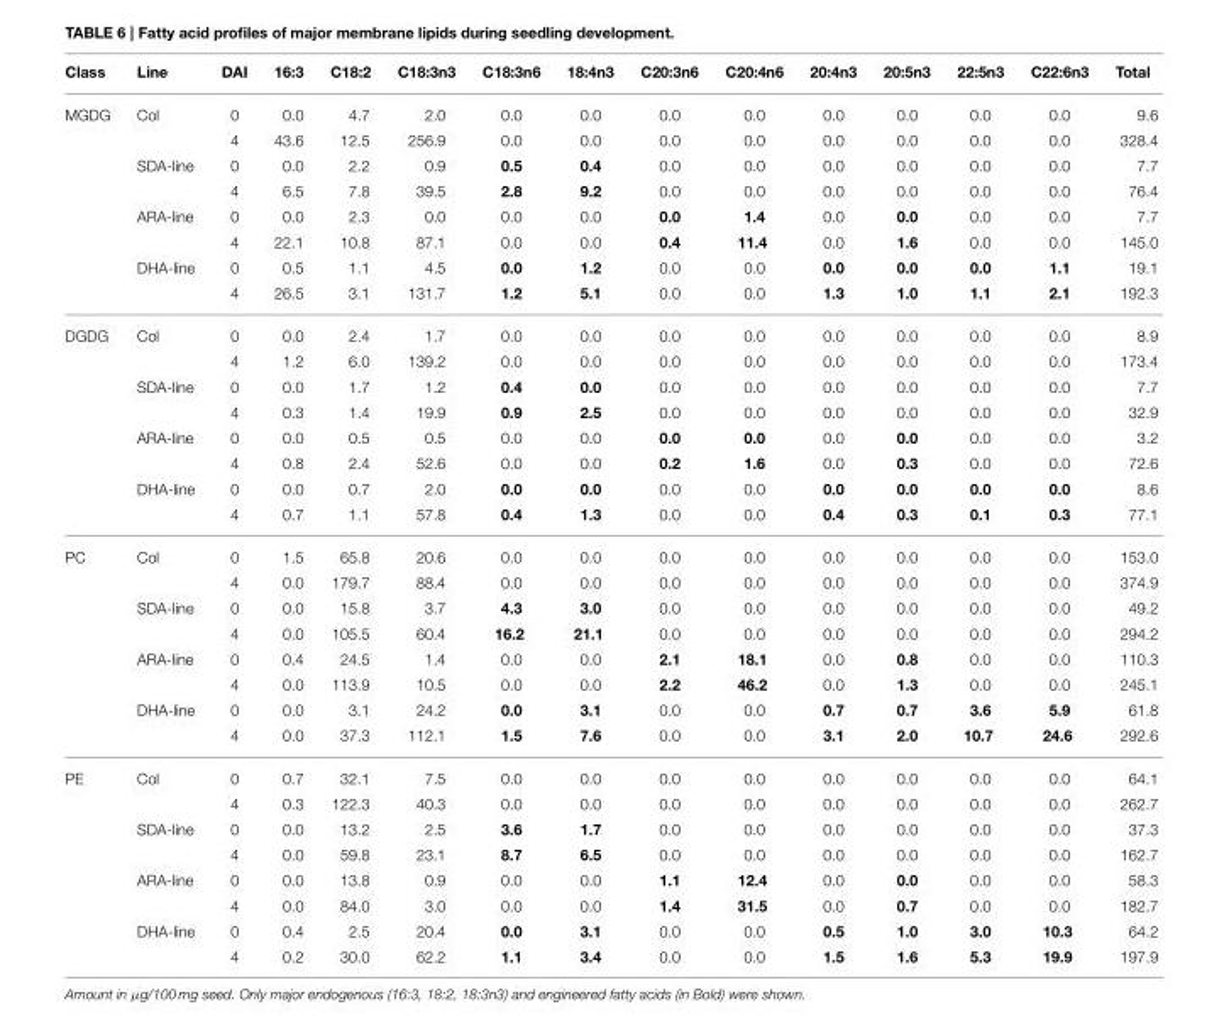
<table><thead><tr><td>Class</td><td>Line</td><td>DAI</td><td>16:3</td><td>C18:2</td><td>C18:3n3</td><td>C18:3n6</td><td>18:4n3</td><td>C20:3n6</td><td>C20:4n6</td><td>20:4n3</td><td>20:5n3</td><td>22:5n3</td><td>C22:6n3</td><td>Total</td></tr></thead><tbody><tr><td rowspan="8">MGDG</td><td>Col</td><td>0</td><td>0.0</td><td>4.7</td><td>2.0</td><td>0.0</td><td>0.0</td><td>0.0</td><td>0.0</td><td>0.0</td><td>0.0</td><td>0.0</td><td>0.0</td><td>9.6</td></tr><tr><td></td><td>4</td><td>43.6</td><td>12.5</td><td>256.9</td><td>0.0</td><td>0.0</td><td>0.0</td><td>0.0</td><td>0.0</td><td>0.0</td><td>0.0</td><td>0.0</td><td>328.4</td></tr><tr><td>SDA-line</td><td>0</td><td>0.0</td><td>2.2</td><td>0.9</td><td>0.5</td><td>0.4</td><td>0.0</td><td>0.0</td><td>0.0</td><td>0.0</td><td>0.0</td><td>0.0</td><td>7.7</td></tr><tr><td></td><td>4</td><td>6.5</td><td>7.8</td><td>39.5</td><td>2.8</td><td>9.2</td><td>0.0</td><td>0.0</td><td>0.0</td><td>0.0</td><td>0.0</td><td>0.0</td><td>76.4</td></tr><tr><td>ARA-line</td><td>0</td><td>0.0</td><td>2.3</td><td>0.0</td><td>0.0</td><td>0.0</td><td>0.0</td><td>1.4</td><td>0.0</td><td>0.0</td><td>0.0</td><td>0.0</td><td>7.7</td></tr><tr><td></td><td>4</td><td>22.1</td><td>10.8</td><td>87.1</td><td>0.0</td><td>0.0</td><td>0.4</td><td>11.4</td><td>0.0</td><td>1.6</td><td>0.0</td><td>0.0</td><td>145.0</td></tr><tr><td>DHA-line</td><td>0</td><td>0.5</td><td>1.1</td><td>4.5</td><td>0.0</td><td>1.2</td><td>0.0</td><td>0.0</td><td>0.0</td><td>0.0</td><td>0.0</td><td>1.1</td><td>19.1</td></tr><tr><td></td><td>4</td><td>26.5</td><td>3.1</td><td>131.7</td><td>1.2</td><td>5.1</td><td>0.0</td><td>0.0</td><td>1.3</td><td>1.0</td><td>1.1</td><td>2.1</td><td>192.3</td></tr><tr><td rowspan="8">DGDG</td><td>Col</td><td>0</td><td>0.0</td><td>2.4</td><td>1.7</td><td>0.0</td><td>0.0</td><td>0.0</td><td>0.0</td><td>0.0</td><td>0.0</td><td>0.0</td><td>0.0</td><td>8.9</td></tr><tr><td></td><td>4</td><td>1.2</td><td>6.0</td><td>139.2</td><td>0.0</td><td>0.0</td><td>0.0</td><td>0.0</td><td>0.0</td><td>0.0</td><td>0.0</td><td>0.0</td><td>173.4</td></tr><tr><td>SDA-line</td><td>0</td><td>0.0</td><td>1.7</td><td>1.2</td><td>0.4</td><td>0.0</td><td>0.0</td><td>0.0</td><td>0.0</td><td>0.0</td><td>0.0</td><td>0.0</td><td>7.7</td></tr><tr><td></td><td>4</td><td>0.3</td><td>1.4</td><td>19.9</td><td>0.9</td><td>2.5</td><td>0.0</td><td>0.0</td><td>0.0</td><td>0.0</td><td>0.0</td><td>0.0</td><td>32.9</td></tr><tr><td>ARA-line</td><td>0</td><td>0.0</td><td>0.5</td><td>0.5</td><td>0.0</td><td>0.0</td><td>0.0</td><td>0.0</td><td>0.0</td><td>0.0</td><td>0.0</td><td>0.0</td><td>3.2</td></tr><tr><td></td><td>4</td><td>0.8</td><td>2.4</td><td>52.6</td><td>0.0</td><td>0.0</td><td>0.2</td><td>1.6</td><td>0.0</td><td>0.3</td><td>0.0</td><td>0.0</td><td>72.6</td></tr><tr><td>DHA-line</td><td>0</td><td>0.0</td><td>0.7</td><td>2.0</td><td>0.0</td><td>0.0</td><td>0.0</td><td>0.0</td><td>0.0</td><td>0.0</td><td>0.0</td><td>0.0</td><td>8.6</td></tr><tr><td></td><td>4</td><td>0.7</td><td>1.1</td><td>57.8</td><td>0.4</td><td>1.3</td><td>0.0</td><td>0.0</td><td>0.4</td><td>0.3</td><td>0.1</td><td>0.3</td><td>77.1</td></tr><tr><td rowspan="8">PC</td><td>Col</td><td>0</td><td>1.5</td><td>65.8</td><td>20.6</td><td>0.0</td><td>0.0</td><td>0.0</td><td>0.0</td><td>0.0</td><td>0.0</td><td>0.0</td><td>0.0</td><td>153.0</td></tr><tr><td></td><td>4</td><td>0.0</td><td>179.7</td><td>88.4</td><td>0.0</td><td>0.0</td><td>0.0</td><td>0.0</td><td>0.0</td><td>0.0</td><td>0.0</td><td>0.0</td><td>374.9</td></tr><tr><td>SDA-line</td><td>0</td><td>0.0</td><td>15.8</td><td>3.7</td><td>4.3</td><td>3.0</td><td>0.0</td><td>0.0</td><td>0.0</td><td>0.0</td><td>0.0</td><td>0.0</td><td>49.2</td></tr><tr><td></td><td>4</td><td>0.0</td><td>105.5</td><td>60.4</td><td>16.2</td><td>21.1</td><td>0.0</td><td>0.0</td><td>0.0</td><td>0.0</td><td>0.0</td><td>0.0</td><td>294.2</td></tr><tr><td>ARA-line</td><td>0</td><td>0.4</td><td>24.5</td><td>1.4</td><td>0.0</td><td>0.0</td><td>2.1</td><td>18.1</td><td>0.0</td><td>0.8</td><td>0.0</td><td>0.0</td><td>110.3</td></tr><tr><td></td><td>4</td><td>0.0</td><td>113.9</td><td>10.5</td><td>0.0</td><td>0.0</td><td>2.2</td><td>46.2</td><td>0.0</td><td>1.3</td><td>0.0</td><td>0.0</td><td>245.1</td></tr><tr><td>DHA-line</td><td>0</td><td>0.0</td><td>3.1</td><td>24.2</td><td>0.0</td><td>3.1</td><td>0.0</td><td>0.0</td><td>0.7</td><td>0.7</td><td>3.6</td><td>5.9</td><td>61.8</td></tr><tr><td></td><td>4</td><td>0.0</td><td>37.3</td><td>112.1</td><td>1.5</td><td>7.6</td><td>0.0</td><td>0.0</td><td>3.1</td><td>2.0</td><td>10.7</td><td>24.6</td><td>292.6</td></tr><tr><td rowspan="8">PE</td><td>Col</td><td>0</td><td>0.7</td><td>32.1</td><td>7.5</td><td>0.0</td><td>0.0</td><td>0.0</td><td>0.0</td><td>0.0</td><td>0.0</td><td>0.0</td><td>0.0</td><td>64.1</td></tr><tr><td></td><td>4</td><td>0.3</td><td>122.3</td><td>40.3</td><td>0.0</td><td>0.0</td><td>0.0</td><td>0.0</td><td>0.0</td><td>0.0</td><td>0.0</td><td>0.0</td><td>262.7</td></tr><tr><td>SDA-line</td><td>0</td><td>0.0</td><td>13.2</td><td>2.5</td><td>3.6</td><td>1.7</td><td>0.0</td><td>0.0</td><td>0.0</td><td>0.0</td><td>0.0</td><td>0.0</td><td>37.3</td></tr><tr><td></td><td>4</td><td>0.0</td><td>59.8</td><td>23.1</td><td>8.7</td><td>6.5</td><td>0.0</td><td>0.0</td><td>0.0</td><td>0.0</td><td>0.0</td><td>0.0</td><td>162.7</td></tr><tr><td>ARA-line</td><td>0</td><td>0.0</td><td>13.8</td><td>0.9</td><td>0.0</td><td>0.0</td><td>1.1</td><td>12.4</td><td>0.0</td><td>0.0</td><td>0.0</td><td>0.0</td><td>58.3</td></tr><tr><td></td><td>4</td><td>0.0</td><td>84.0</td><td>3.0</td><td>0.0</td><td>0.0</td><td>1.4</td><td>31.5</td><td>0.0</td><td>0.7</td><td>0.0</td><td>0.0</td><td>182.7</td></tr><tr><td>DHA-line</td><td>0</td><td>0.4</td><td>2.5</td><td>20.4</td><td>0.0</td><td>3.1</td><td>0.0</td><td>0.0</td><td>0.5</td><td>1.0</td><td>3.0</td><td>10.3</td><td>64.2</td></tr><tr><td></td><td>4</td><td>0.2</td><td>30.0</td><td>62.2</td><td>1.1</td><td>3.4</td><td>0.0</td><td>0.0</td><td>1.5</td><td>1.6</td><td>5.3</td><td>19.9</td><td>197.9</td></tr></tbody></table>